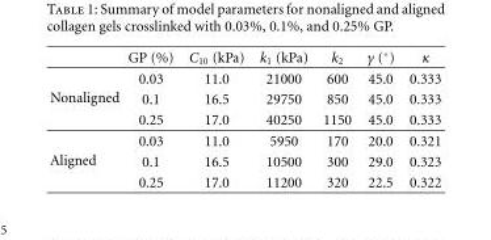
<table><thead><tr><td></td><td>GP (%)</td><td>C<sub>10</sub> (kPa)</td><td>k<sub>1</sub> (kPa)</td><td>k<sub>2</sub></td><td>γ (◦)</td><td>κ</td></tr></thead><tbody><tr><td rowspan="3">Nonaligned</td><td>0.03</td><td>11.0</td><td>21000</td><td>600</td><td>45.0</td><td>0.333</td></tr><tr><td>0.1</td><td>16.5</td><td>29750</td><td>850</td><td>45.0</td><td>0.333</td></tr><tr><td>0.25</td><td>17.0</td><td>40250</td><td>1150</td><td>45.0</td><td>0.333</td></tr><tr><td rowspan="3">Aligned</td><td>0.03</td><td>11.0</td><td>5950</td><td>170</td><td>20.0</td><td>0.321</td></tr><tr><td>0.1</td><td>16.5</td><td>10500</td><td>300</td><td>29.0</td><td>0.323</td></tr><tr><td>0.25</td><td>17.0</td><td>11200</td><td>320</td><td>22.5</td><td>0.322</td></tr></tbody></table>